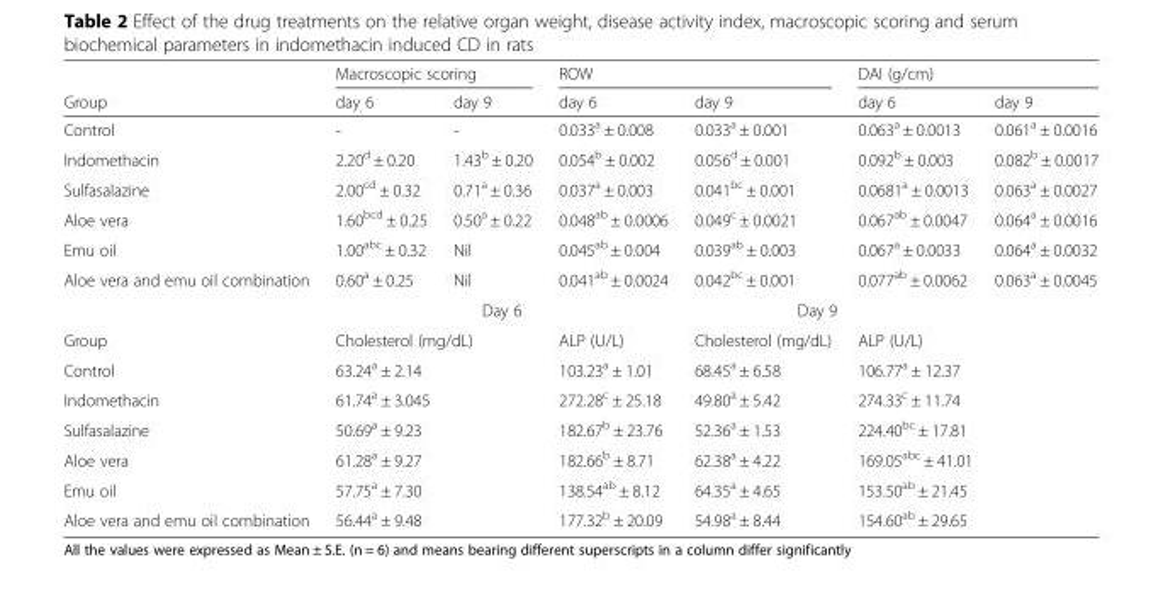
<table><thead><tr><td rowspan="2">Group</td><td colspan="2">Macroscopic scoring</td><td colspan="2">ROW</td><td colspan="2">DAI (g/cm)</td></tr><tr><td>day 6</td><td>day 9</td><td>day 6</td><td>day 9</td><td>day 6</td><td>day 9</td></tr></thead><tbody><tr><td>Control</td><td>-</td><td>-</td><td>0.033<sup>a</sup> ± 0.008</td><td>0.033<sup>a</sup> ± 0.001</td><td>0.063<sup>a</sup> ± 0.0013</td><td>0.061<sup>a</sup> ± 0.0016</td></tr><tr><td>Indomethacin</td><td>2.20<sup>d</sup> ± 0.20</td><td>1.43<sup>b</sup> ± 0.20</td><td>0.054<sup>b</sup> ± 0.002</td><td>0.056<sup>d</sup> ± 0.001</td><td>0.092<sup>b</sup> ± 0.003</td><td>0.082<sup>b</sup> ± 0.0017</td></tr><tr><td>Sulfasalazine</td><td>2.00<sup>cd</sup> ± 0.32</td><td>0.71<sup>a</sup> ± 0.36</td><td>0.037<sup>a</sup> ± 0.003</td><td>0.041<sup>bc</sup> ± 0.001</td><td>0.0681<sup>a</sup> ± 0.0013</td><td>0.063<sup>a</sup> ± 0.0027</td></tr><tr><td>Aloe vera</td><td>1.60<sup>bcd</sup> ± 0.25</td><td>0.50<sup>a</sup> ± 0.22</td><td>0.048<sup>ab</sup> ± 0.0006</td><td>0.049<sup>c</sup> ± 0.0021</td><td>0.067<sup>ab</sup> ± 0.0047</td><td>0.064<sup>a</sup> ± 0.0016</td></tr><tr><td>Emu oil</td><td>1.00<sup>abc</sup> ± 0.32</td><td>Nil</td><td>0.045<sup>ab</sup> ± 0.004</td><td>0.039<sup>ab</sup> ± 0.003</td><td>0.067<sup>a</sup> ± 0.0033</td><td>0.064<sup>a</sup> ± 0.0032</td></tr><tr><td rowspan="2">Aloe vera and emu oil combination</td><td>0.60<sup>a</sup> ± 0.25</td><td>Nil</td><td>0.041<sup>ab</sup> ± 0.0024</td><td>0.042<sup>bc</sup> ± 0.001</td><td>0.077<sup>ab</sup> ± 0.0062</td><td>0.063<sup>a</sup> ± 0.0045</td></tr><tr><td colspan="3">Day 6</td><td colspan="3">Day 9</td></tr><tr><td>Group</td><td colspan="2">Cholesterol (mg/dL)</td><td>ALP (U/L)</td><td>Cholesterol (mg/dL)</td><td colspan="2">ALP (U/L)</td></tr><tr><td>Control</td><td colspan="2">63.24<sup>a</sup> ± 2.14</td><td>103.23<sup>a</sup> ± 1.01</td><td>68.45<sup>a</sup> ± 6.58</td><td colspan="2">106.77<sup>a</sup> ± 12.37</td></tr><tr><td>Indomethacin</td><td colspan="2">61.74<sup>a</sup> ± 3.045</td><td>272.28<sup>c</sup> ± 25.18</td><td>49.80<sup>a</sup> ± 5.42</td><td colspan="2">274.33<sup>c</sup> ± 11.74</td></tr><tr><td>Sulfasalazine</td><td colspan="2">50.69<sup>a</sup> ± 9.23</td><td>182.67<sup>b</sup> ± 23.76</td><td>52.36<sup>a</sup> ± 1.53</td><td colspan="2">224.40<sup>bc</sup> ± 17.81</td></tr><tr><td>Aloe vera</td><td colspan="2">61.28<sup>a</sup> ± 9.27</td><td>182.66<sup>b</sup> ± 8.71</td><td>62.38<sup>a</sup> ± 4.22</td><td colspan="2">169.05<sup>abc</sup> ± 41.01</td></tr><tr><td>Emu oil</td><td colspan="2">57.75<sup>a</sup> ± 7.30</td><td>138.54<sup>ab</sup> ± 8.12</td><td>64.35<sup>a</sup> ± 4.65</td><td colspan="2">153.50<sup>ab</sup> ± 21.45</td></tr><tr><td>Aloe vera and emu oil combination</td><td colspan="2">56.44<sup>a</sup> ± 9.48</td><td>177.32<sup>b</sup> ± 20.09</td><td>54.98<sup>a</sup> ± 8.44</td><td colspan="2">154.60<sup>ab</sup> ± 29.65</td></tr></tbody></table>